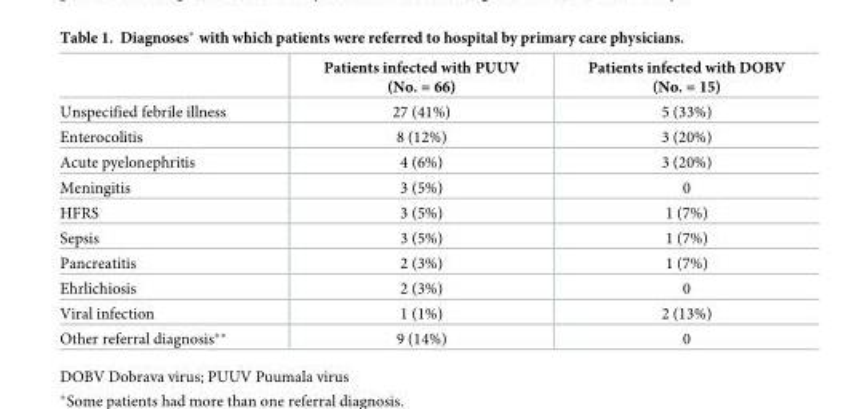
<table><thead><tr><td></td><td>Patients infected with PUUV (No. = 66)</td><td>Patients infected with DOBV (No. = 15)</td></tr></thead><tbody><tr><td>Unspecified febrile illness</td><td>27 (41%)</td><td>5 (33%)</td></tr><tr><td>Enterocolitis</td><td>8 (12%)</td><td>3 (20%)</td></tr><tr><td>Acute pyelonephritis</td><td>4 (6%)</td><td>3 (20%)</td></tr><tr><td>Meningitis</td><td>3 (5%)</td><td>0</td></tr><tr><td>HFRS</td><td>3 (5%)</td><td>1 (7%)</td></tr><tr><td>Sepsis</td><td>3 (5%)</td><td>1 (7%)</td></tr><tr><td>Pancreatitis</td><td>2 (3%)</td><td>1 (7%)</td></tr><tr><td>Ehrlichiosis</td><td>2 (3%)</td><td>0</td></tr><tr><td>Viral infection</td><td>1 (1%)</td><td>2 (13%)</td></tr><tr><td>Other referral diagnosis**</td><td>9 (14%)</td><td>0</td></tr></tbody></table>